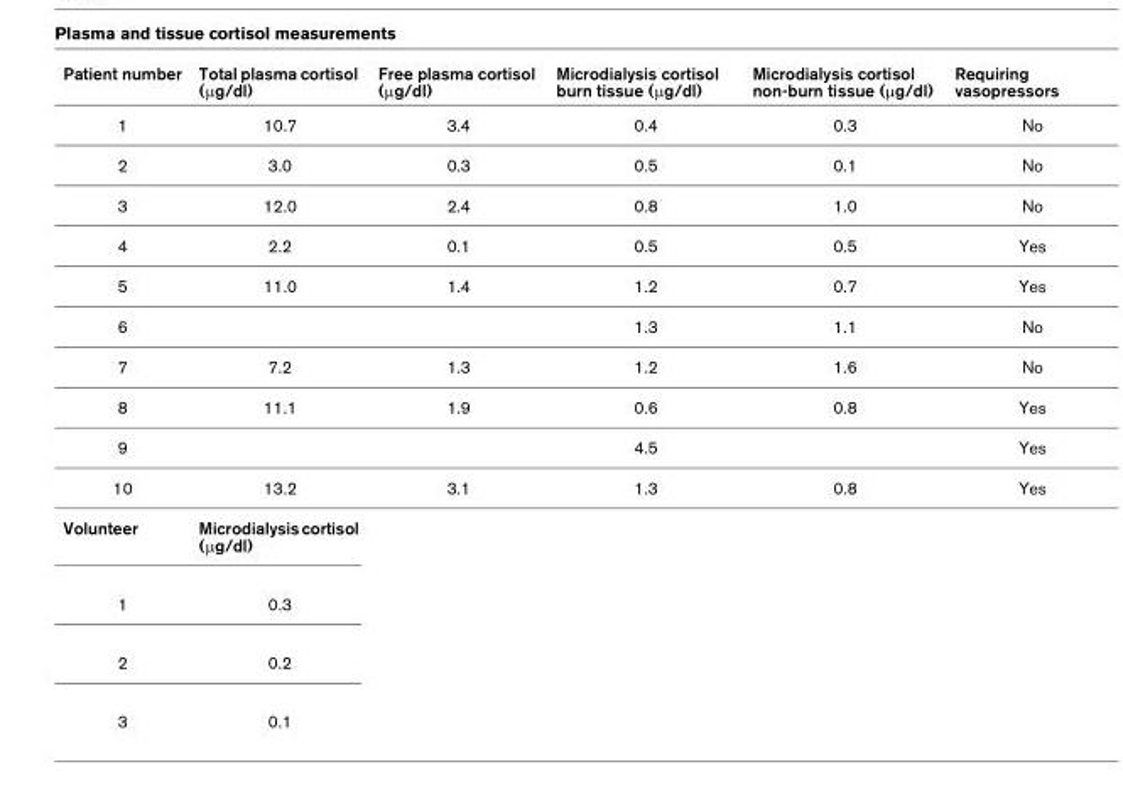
<table><thead><tr><td>Patient number</td><td>Total plasma cortisol (μg/dl)</td><td>Free plasma cortisol (μg/dl)</td><td>Microdialysis cortisol burn tissue (μg/dl)</td><td>Microdialysis cortisol non-burn tissue (μg/dl)</td><td>Requiring vasopressors</td></tr></thead><tbody><tr><td>1</td><td>10.7</td><td>3.4</td><td>0.4</td><td>0.3</td><td>No</td></tr><tr><td>2</td><td>3.0</td><td>0.3</td><td>0.5</td><td>0.1</td><td>No</td></tr><tr><td>3</td><td>12.0</td><td>2.4</td><td>0.8</td><td>1.0</td><td>No</td></tr><tr><td>4</td><td>2.2</td><td>0.1</td><td>0.5</td><td>0.5</td><td>Yes</td></tr><tr><td>5</td><td>11.0</td><td>1.4</td><td>1.2</td><td>0.7</td><td>Yes</td></tr><tr><td>6</td><td></td><td></td><td>1.3</td><td>1.1</td><td>No</td></tr><tr><td>7</td><td>7.2</td><td>1.3</td><td>1.2</td><td>1.6</td><td>No</td></tr><tr><td>8</td><td>11.1</td><td>1.9</td><td>0.6</td><td>0.8</td><td>Yes</td></tr><tr><td>9</td><td></td><td></td><td>4.5</td><td></td><td>Yes</td></tr><tr><td>10</td><td>13.2</td><td>3.1</td><td>1.3</td><td>0.8</td><td>Yes</td></tr><tr><td>Volunteer</td><td>Microdialysis cortisol (μg/dl)</td><td></td><td></td><td></td><td></td></tr><tr><td>1</td><td>0.3</td><td></td><td></td><td></td><td></td></tr><tr><td>2</td><td>0.2</td><td></td><td></td><td></td><td></td></tr><tr><td>3</td><td>0.1</td><td></td><td></td><td></td><td></td></tr></tbody></table>